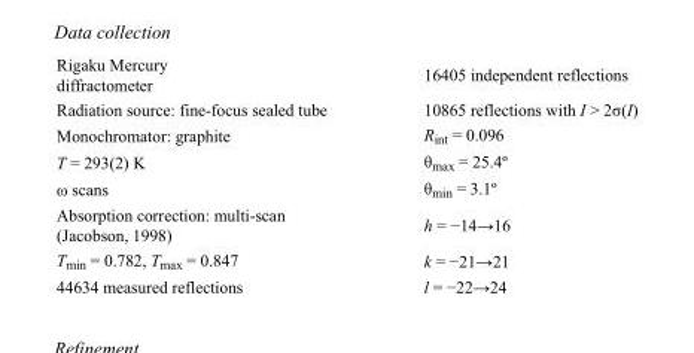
<table><tbody><tr><td>Rigaku Mercury diffractometer</td><td>16405 independent reflections</td></tr><tr><td>Radiation source: fine-focus sealed tube</td><td>10865 reflections with I &gt; 2σ(I)</td></tr><tr><td>Monochromator: graphite</td><td>R<sub>int</sub> = 0.096</td></tr><tr><td>T = 293(2) K</td><td>θ<sub>max</sub> = 25.4º</td></tr><tr><td>ω scans</td><td>θ<sub>min</sub> = 3.1º</td></tr><tr><td>Absorption correction: multi-scan (Jacobson, 1998)</td><td>h = −14→16</td></tr><tr><td>T<sub>min</sub> = 0.782, T<sub>max</sub> = 0.847</td><td>k = −21→21</td></tr><tr><td>44634 measured reflections</td><td>l = −22→24</td></tr></tbody></table>